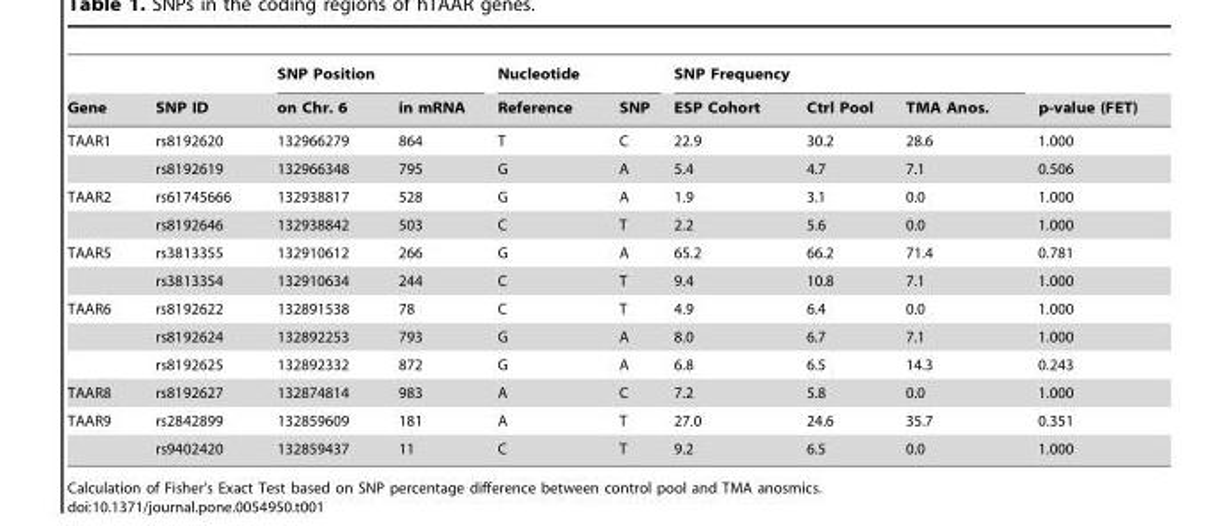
<table><thead><tr><td rowspan="2">Gene</td><td rowspan="2">SNP ID</td><td colspan="2">SNP Position</td><td colspan="2">Nucleotide</td><td colspan="3">SNP Frequency</td><td rowspan="2">p-value (FET)</td></tr><tr><td>on Chr. 6</td><td>in mRNA</td><td>Reference</td><td>SNP</td><td>ESP Cohort</td><td>Ctrl Pool</td><td>TMA Anos.</td></tr></thead><tbody><tr><td rowspan="2">TAAR1</td><td>rs8192620</td><td>132966279</td><td>864</td><td>T</td><td>C</td><td>22.9</td><td>30.2</td><td>28.6</td><td>1.000</td></tr><tr><td>rs8192619</td><td>132966348</td><td>795</td><td>G</td><td>A</td><td>5.4</td><td>4.7</td><td>7.1</td><td>0.506</td></tr><tr><td rowspan="2">TAAR2</td><td>rs61745666</td><td>132938817</td><td>528</td><td>G</td><td>A</td><td>1.9</td><td>3.1</td><td>0.0</td><td>1.000</td></tr><tr><td>rs8192646</td><td>132938842</td><td>503</td><td>C</td><td>T</td><td>2.2</td><td>5.6</td><td>0.0</td><td>1.000</td></tr><tr><td rowspan="2">TAAR5</td><td>rs3813355</td><td>132910612</td><td>266</td><td>G</td><td>A</td><td>65.2</td><td>66.2</td><td>71.4</td><td>0.781</td></tr><tr><td>rs3813354</td><td>132910634</td><td>244</td><td>C</td><td>T</td><td>9.4</td><td>10.8</td><td>7.1</td><td>1.000</td></tr><tr><td rowspan="3">TAAR6</td><td>rs8192622</td><td>132891538</td><td>78</td><td>C</td><td>T</td><td>4.9</td><td>6.4</td><td>0.0</td><td>1.000</td></tr><tr><td>rs8192624</td><td>132892253</td><td>793</td><td>G</td><td>A</td><td>8.0</td><td>6.7</td><td>7.1</td><td>1.000</td></tr><tr><td>rs8192625</td><td>132892332</td><td>872</td><td>G</td><td>A</td><td>6.8</td><td>6.5</td><td>14.3</td><td>0.243</td></tr><tr><td>TAAR8</td><td>rs8192627</td><td>132874814</td><td>983</td><td>A</td><td>C</td><td>7.2</td><td>5.8</td><td>0.0</td><td>1.000</td></tr><tr><td rowspan="2">TAAR9</td><td>rs2842899</td><td>132859609</td><td>181</td><td>A</td><td>T</td><td>27.0</td><td>24.6</td><td>35.7</td><td>0.351</td></tr><tr><td>rs9402420</td><td>132859437</td><td>11</td><td>C</td><td>T</td><td>9.2</td><td>6.5</td><td>0.0</td><td>1.000</td></tr></tbody></table>